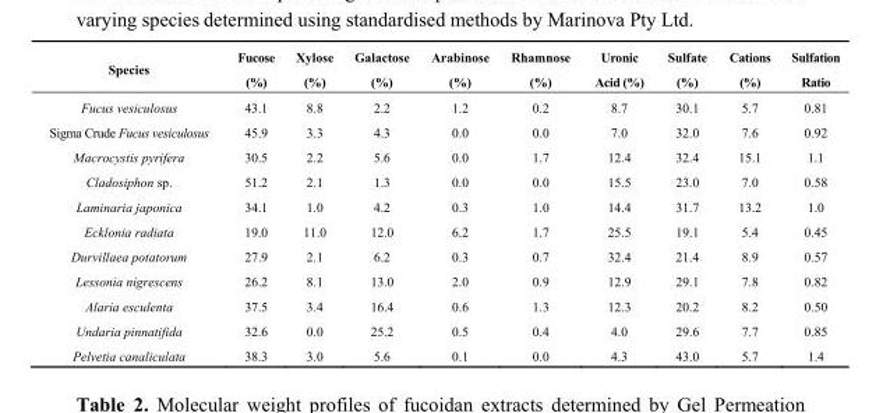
<table><thead><tr><td>Species</td><td>Fucose (%)</td><td>Xylose (%)</td><td>Galactose (%)</td><td>Arabinose (%)</td><td>Rhamnose (%)</td><td>Uronic Acid (%)</td><td>Sulfate (%)</td><td>Cations (%)</td><td>Sulfation Ratio</td></tr></thead><tbody><tr><td>Fucus vesiculosus</td><td>43.1</td><td>8.8</td><td>2.2</td><td>1.2</td><td>0.2</td><td>8.7</td><td>30.1</td><td>5.7</td><td>0.81</td></tr><tr><td>Sigma Crude Fucus vesiculosus</td><td>45.9</td><td>3.3</td><td>4.3</td><td>0.0</td><td>0.0</td><td>7.0</td><td>32.0</td><td>7.6</td><td>0.92</td></tr><tr><td>Macrocystis pyrifera</td><td>30.5</td><td>2.2</td><td>5.6</td><td>0.0</td><td>1.7</td><td>12.4</td><td>32.4</td><td>15.1</td><td>1.1</td></tr><tr><td>Cladosiphon sp.</td><td>51.2</td><td>2.1</td><td>1.3</td><td>0.0</td><td>0.0</td><td>15.5</td><td>23.0</td><td>7.0</td><td>0.58</td></tr><tr><td>Laminaria japonica</td><td>34.1</td><td>1.0</td><td>4.2</td><td>0.3</td><td>1.0</td><td>14.4</td><td>31.7</td><td>13.2</td><td>1.0</td></tr><tr><td>Ecklonia radiata</td><td>19.0</td><td>11.0</td><td>12.0</td><td>6.2</td><td>1.7</td><td>25.5</td><td>19.1</td><td>5.4</td><td>0.45</td></tr><tr><td>Durvillaea potatorum</td><td>27.9</td><td>2.1</td><td>6.2</td><td>0.3</td><td>0.7</td><td>32.4</td><td>21.4</td><td>8.9</td><td>0.57</td></tr><tr><td>Lessonia nigrescens</td><td>26.2</td><td>8.1</td><td>13.0</td><td>2.0</td><td>0.9</td><td>12.9</td><td>29.1</td><td>7.8</td><td>0.82</td></tr><tr><td>Alaria esculenta</td><td>37.5</td><td>3.4</td><td>16.4</td><td>0.6</td><td>1.3</td><td>12.3</td><td>20.2</td><td>8.2</td><td>0.50</td></tr><tr><td>Undaria pinnatifida</td><td>32.6</td><td>0.0</td><td>25.2</td><td>0.5</td><td>0.4</td><td>4.0</td><td>29.6</td><td>7.7</td><td>0.85</td></tr><tr><td>Pelvetia canaliculata</td><td>38.3</td><td>3.0</td><td>5.6</td><td>0.1</td><td>0.0</td><td>4.3</td><td>43.0</td><td>5.7</td><td>1.4</td></tr></tbody></table>